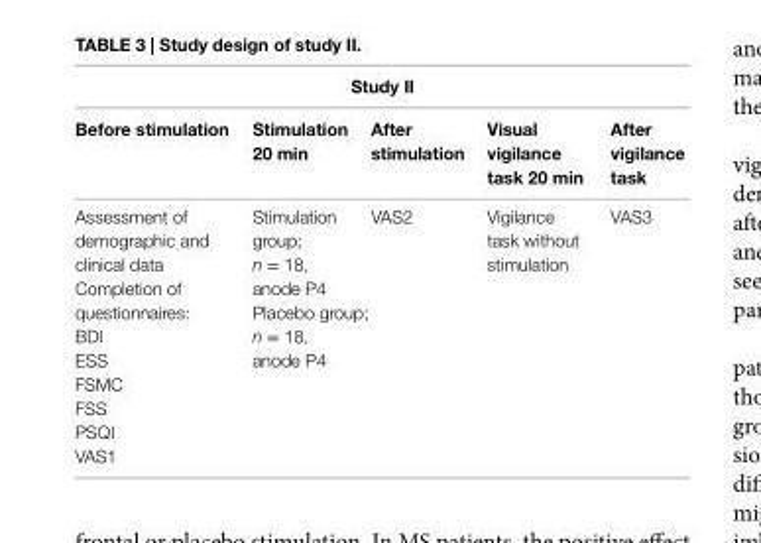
<table><thead><tr><td colspan="5">study ii</td></tr><tr><td>Before stimulation</td><td>stimulation 20 min</td><td>after stimulation</td><td>Visual vigilance task 20 min</td><td>after vigilance task</td></tr></thead><tbody><tr><td>Assessment of demographic and clinical data Completion of questionnaires: BDI ESS FSMC FSS PSQI VAS1</td><td>Stimulation group; n = 18, anode P4 Placebo group; n = 18, anode P4</td><td>VAS2</td><td>Vigilance task without stimulation</td><td>VAS3</td></tr></tbody></table>